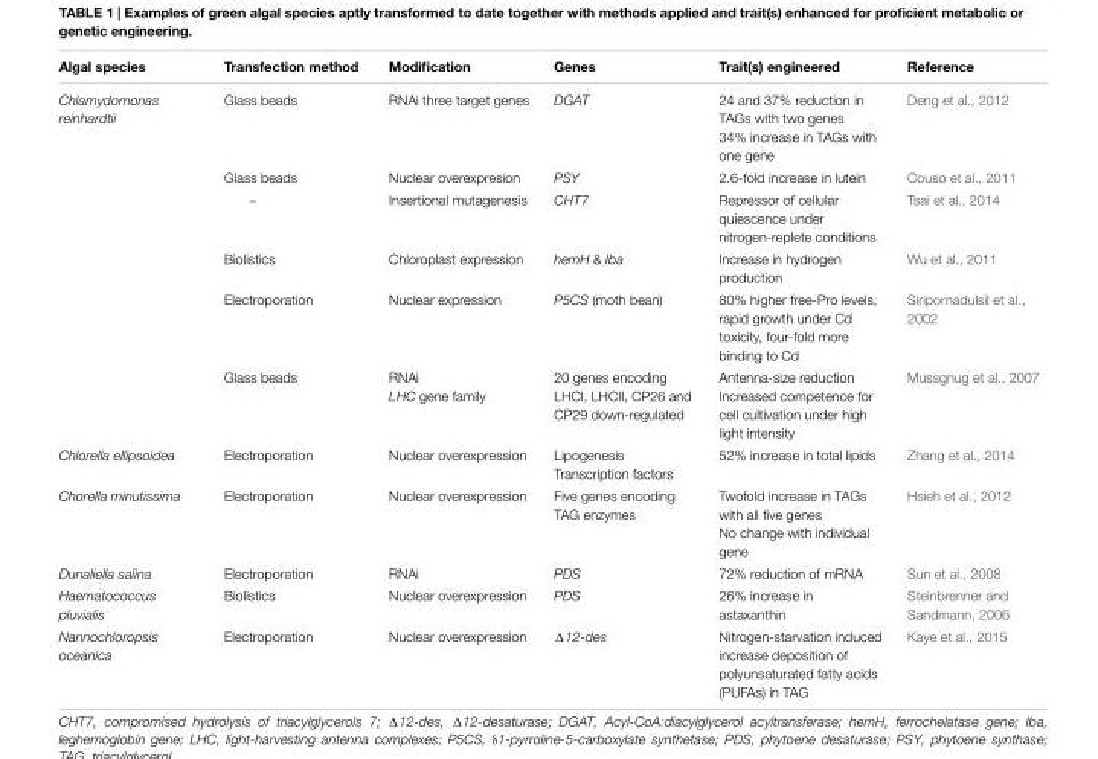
<table><thead><tr><td>Algal species</td><td>Transfection method</td><td>Modification</td><td>Genes</td><td>Trait(s) engineered</td><td>Reference</td></tr></thead><tbody><tr><td rowspan="6">Chlamydomonas reinhardtii</td><td>Glass beads</td><td>RNAi three target genes</td><td>DGAT</td><td>24 and 37% reduction in TAGs with two genes 34% increase in TAGs with one gene</td><td>Deng et al., 2012</td></tr><tr><td>Glass beads</td><td>Nuclear overexpresion</td><td>PSY</td><td>2.6-fold increase in lutein</td><td>Couso et al., 2011</td></tr><tr><td>–</td><td>Insertional mutagenesis</td><td>CHT7</td><td>Repressor of cellular quiescence under nitrogen-replete conditions</td><td>Tsai et al., 2014</td></tr><tr><td>Biolistics</td><td>Chloroplast expression</td><td>hemH &amp; Iba</td><td>Increase in hydrogen production</td><td>Wu et al., 2011</td></tr><tr><td>Electroporation</td><td>Nuclear expression</td><td>P5CS (moth bean)</td><td>80% higher free-Pro levels, rapid growth under Cd toxicity, four-fold more binding to Cd</td><td>Siripornadulsil et al., 2002</td></tr><tr><td>Glass beads</td><td>RNAi LHC gene family</td><td>20 genes encoding LHCI, LHCII, CP26 and CP29 down-regulated</td><td>Antenna-size reduction Increased competence for cell cultivation under high light intensity</td><td>Mussgnug et al., 2007</td></tr><tr><td>Chlorella ellipsoidea</td><td>Electroporation</td><td>Nuclear overexpression</td><td>Lipogenesis Transcription factors</td><td>52% increase in total lipids</td><td>Zhang et al., 2014</td></tr><tr><td>Chorella minutissima</td><td>Electroporation</td><td>Nuclear overexpression</td><td>Five genes encoding TAG enzymes</td><td>Twofold increase in TAGs with all five genes No change with individual gene</td><td>Hsieh et al., 2012</td></tr><tr><td>Dunaliella salina</td><td>Electroporation</td><td>RNAi</td><td>PDS</td><td>72% reduction of mRNA</td><td>Sun et al., 2008</td></tr><tr><td>Haematococcus pluvialis</td><td>Biolistics</td><td>Nuclear overexpression</td><td>PDS</td><td>26% increase in astaxanthin</td><td>Steinbrenner and Sandmann, 2006</td></tr><tr><td>Nannochloropsis oceanica</td><td>Electroporation</td><td>Nuclear overexpression</td><td>Δ12-des</td><td>Nitrogen-starvation induced increase deposition of polyunsaturated fatty acids (PUFAs) in TAG</td><td>Kaye et al., 2015</td></tr></tbody></table>